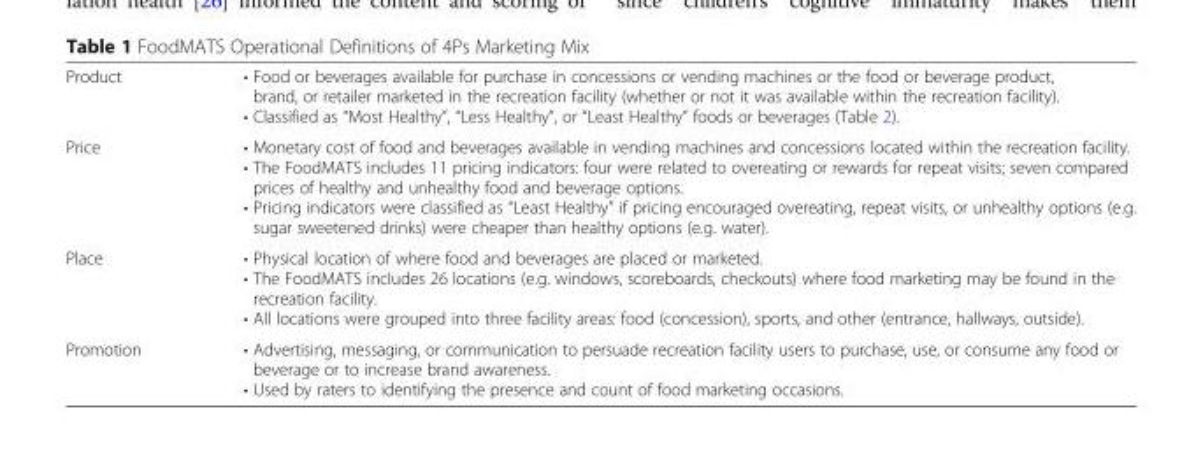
<table><tbody><tr><td>Product</td><td>• Food or beverages available for purchase in concessions or vending machines or the food or beverage product, brand, or retailer marketed in the recreation facility (whether or not it was available within the recreation facility). • Classified as “Most Healthy”, “Less Healthy”, or “Least Healthy” foods or beverages (Table 2).</td></tr><tr><td>Price</td><td>• Monetary cost of food and beverages available in vending machines and concessions located within the recreation facility. • The FoodMATS includes 11 pricing indicators: four were related to overeating or rewards for repeat visits; seven compared prices of healthy and unhealthy food and beverage options. • Pricing indicators were classified as “Least Healthy” if pricing encouraged overeating, repeat visits, or unhealthy options (e.g. sugar sweetened drinks) were cheaper than healthy options (e.g. water).</td></tr><tr><td>Place</td><td>• Physical location of where food and beverages are placed or marketed. • The FoodMATS includes 26 locations (e.g. windows, scoreboards, checkouts) where food marketing may be found in the recreation facility. • All locations were grouped into three facility areas: food (concession), sports, and other (entrance, hallways, outside).</td></tr><tr><td>Promotion</td><td>• Advertising, messaging, or communication to persuade recreation facility users to purchase, use, or consume any food or beverage or to increase brand awareness. • Used by raters to identifying the presence and count of food marketing occasions.</td></tr></tbody></table>